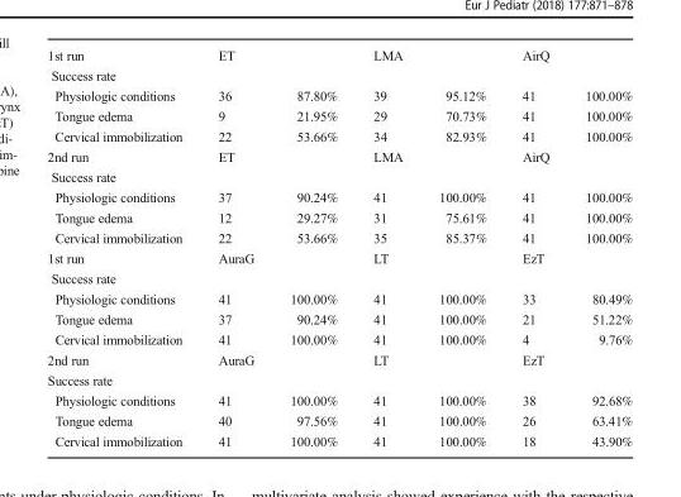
<table><tbody><tr><td>1st run</td><td>ET</td><td></td><td>LMA</td><td></td><td>AirQ</td><td></td></tr><tr><td colspan="7">Success rate</td></tr><tr><td>Physiologic conditions</td><td>36</td><td>87.80%</td><td>39</td><td>95.12%</td><td>41</td><td>100.00%</td></tr><tr><td>Tongue edema</td><td>9</td><td>21.95%</td><td>29</td><td>70.73%</td><td>41</td><td>100.00%</td></tr><tr><td>Cervical immobilization</td><td>22</td><td>53.66%</td><td>34</td><td>82.93%</td><td>41</td><td>100.00%</td></tr><tr><td>2nd run</td><td>ET</td><td></td><td>LMA</td><td></td><td>AirQ</td><td></td></tr><tr><td colspan="7">Success rate</td></tr><tr><td>Physiologic conditions</td><td>37</td><td>90.24%</td><td>41</td><td>100.00%</td><td>41</td><td>100.00%</td></tr><tr><td>Tongue edema</td><td>12</td><td>29.27%</td><td>31</td><td>75.61%</td><td>41</td><td>100.00%</td></tr><tr><td>Cervical immobilization</td><td>22</td><td>53.66%</td><td>35</td><td>85.37%</td><td>41</td><td>100.00%</td></tr><tr><td>1st run</td><td>AuraG</td><td></td><td>LT</td><td></td><td>EzT</td><td></td></tr><tr><td colspan="7">Success rate</td></tr><tr><td>Physiologic conditions</td><td>41</td><td>100.00%</td><td>41</td><td>100.00%</td><td>33</td><td>80.49%</td></tr><tr><td>Tongue edema</td><td>37</td><td>90.24%</td><td>41</td><td>100.00%</td><td>21</td><td>51.22%</td></tr><tr><td>Cervical immobilization</td><td>41</td><td>100.00%</td><td>41</td><td>100.00%</td><td>4</td><td>9.76%</td></tr><tr><td>2nd run</td><td>AuraG</td><td></td><td>LT</td><td></td><td>EzT</td><td></td></tr><tr><td colspan="7">Success rate</td></tr><tr><td>Physiologic conditions</td><td>41</td><td>100.00%</td><td>41</td><td>100.00%</td><td>38</td><td>92.68%</td></tr><tr><td>Tongue edema</td><td>40</td><td>97.56%</td><td>41</td><td>100.00%</td><td>26</td><td>63.41%</td></tr><tr><td>Cervical immobilization</td><td>41</td><td>100.00%</td><td>41</td><td>100.00%</td><td>18</td><td>43.90%</td></tr></tbody></table>